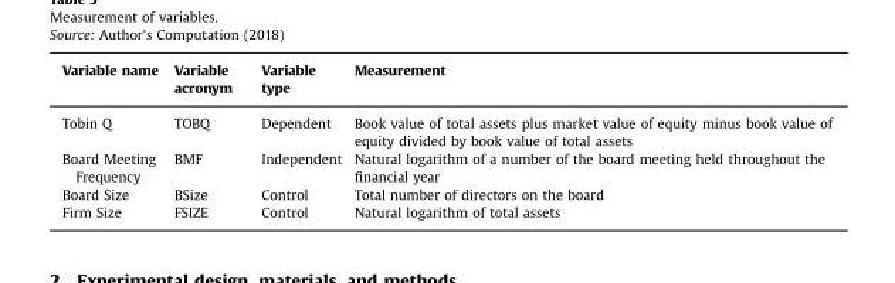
<table><thead><tr><td>Variable name</td><td>Variable acronym</td><td>Variable type</td><td>Measurement</td></tr></thead><tbody><tr><td>Tobin Q</td><td>TOBQ</td><td>Dependent</td><td>Book value of total assets plus market value of equity minus book value of equity divided by book value of total assets</td></tr><tr><td>Board Meeting Frequency</td><td>BMF</td><td>Independent</td><td>Natural logarithm of a number of the board meeting held throughout the financial year</td></tr><tr><td>Board Size</td><td>BSize</td><td>Control</td><td>Total number of directors on the board</td></tr><tr><td>Firm Size</td><td>FSIZE</td><td>Control</td><td>Natural logarithm of total assets</td></tr></tbody></table>